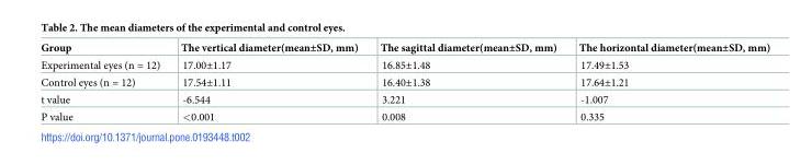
<table><thead><tr><td>Group</td><td>The vertical diameter(mean±SD, mm)</td><td>The sagittal diameter(mean±SD, mm)</td><td>The horizontal diameter(mean±SD, mm)</td></tr></thead><tbody><tr><td>Experimental eyes (n = 12)</td><td>17.00±1.17</td><td>16.85±1.48</td><td>17.49±1.53</td></tr><tr><td>Control eyes (n = 12)</td><td>17.54±1.11</td><td>16.40±1.38</td><td>17.64±1.21</td></tr><tr><td>t value</td><td>-6.544</td><td>3.221</td><td>-1.007</td></tr><tr><td>P value</td><td>&lt;0.001</td><td>0.008</td><td>0.335</td></tr></tbody></table>